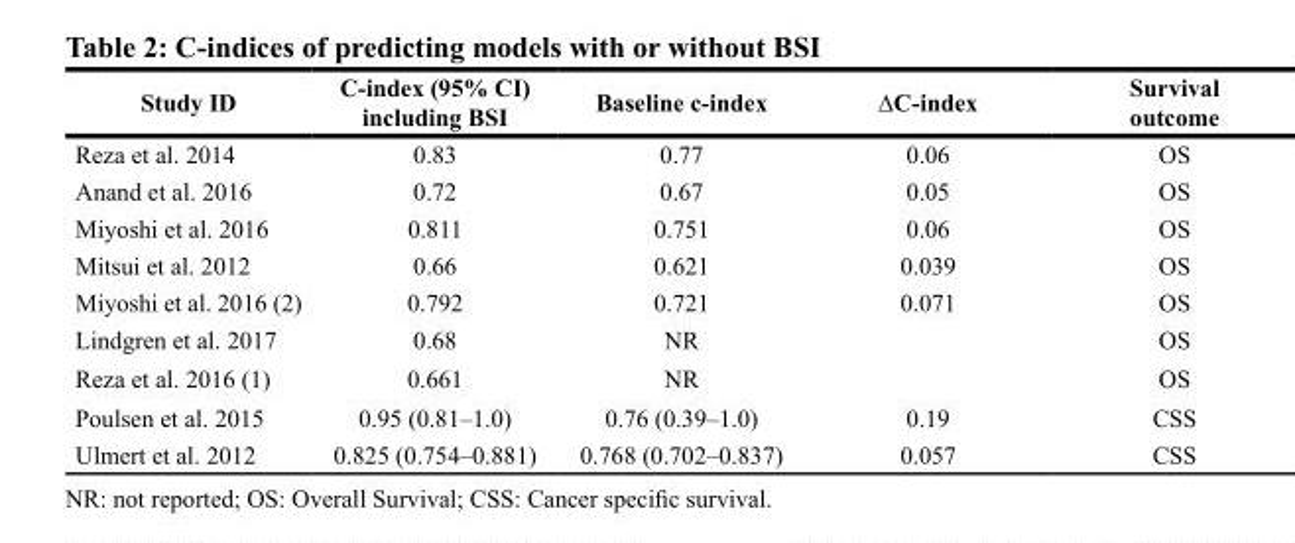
<table><thead><tr><td>Study ID</td><td>C-index (95% CI) including BSI</td><td>Baseline c-index</td><td>∆C-index</td><td>Survival outcome</td></tr></thead><tbody><tr><td>Reza et al. 2014</td><td>0.83</td><td>0.77</td><td>0.06</td><td>OS</td></tr><tr><td>Anand et al. 2016</td><td>0.72</td><td>0.67</td><td>0.05</td><td>OS</td></tr><tr><td>Miyoshi et al. 2016</td><td>0.811</td><td>0.751</td><td>0.06</td><td>OS</td></tr><tr><td>Mitsui et al. 2012</td><td>0.66</td><td>0.621</td><td>0.039</td><td>OS</td></tr><tr><td>Miyoshi et al. 2016 (2)</td><td>0.792</td><td>0.721</td><td>0.071</td><td>OS</td></tr><tr><td>Lindgren et al. 2017</td><td>0.68</td><td>NR</td><td></td><td>OS</td></tr><tr><td>Reza et al. 2016 (1)</td><td>0.661</td><td>NR</td><td></td><td>OS</td></tr><tr><td>Poulsen et al. 2015</td><td>0.95 (0.81–1.0)</td><td>0.76 (0.39–1.0)</td><td>0.19</td><td>CSS</td></tr><tr><td>Ulmert et al. 2012</td><td>0.825 (0.754–0.881)</td><td>0.768 (0.702–0.837)</td><td>0.057</td><td>CSS</td></tr></tbody></table>